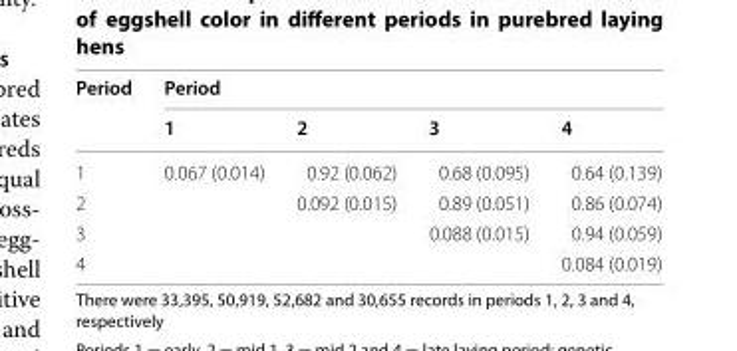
<table><thead><tr><td rowspan="2">Period</td><td colspan="4">Period</td></tr><tr><td>1</td><td>2</td><td>3</td><td>4</td></tr></thead><tbody><tr><td>1</td><td>0.067 (0.014)</td><td>0.92 (0.062)</td><td>0.68 (0.095)</td><td>0.64 (0.139)</td></tr><tr><td>2</td><td></td><td>0.092 (0.015)</td><td>0.89 (0.051)</td><td>0.86 (0.074)</td></tr><tr><td>3</td><td></td><td></td><td>0.088 (0.015)</td><td>0.94 (0.059)</td></tr><tr><td>4</td><td></td><td></td><td></td><td>0.084 (0.019)</td></tr></tbody></table>